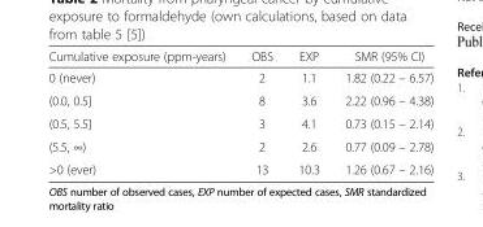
<table><thead><tr><td>Cumulative exposure (ppm-years)</td><td>OBS</td><td>EXP</td><td>SMR (95% CI)</td></tr></thead><tbody><tr><td>0 (never)</td><td>2</td><td>1.1</td><td>1.82 (0.22 – 6.57)</td></tr><tr><td>(0.0, 0.5]</td><td>8</td><td>3.6</td><td>2.22 (0.96 – 4.38)</td></tr><tr><td>(0.5, 5.5]</td><td>3</td><td>4.1</td><td>0.73 (0.15 – 2.14)</td></tr><tr><td>(5.5, ∞)</td><td>2</td><td>2.6</td><td>0.77 (0.09 – 2.78)</td></tr><tr><td>&gt;0 (ever)</td><td>13</td><td>10.3</td><td>1.26 (0.67 – 2.16)</td></tr></tbody></table>